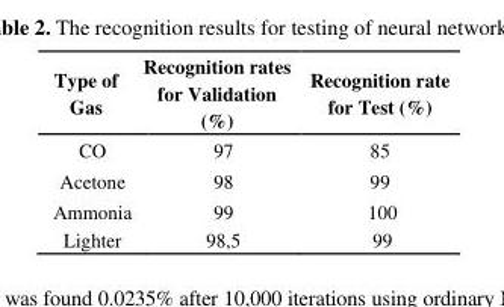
<table><thead><tr><td>Type of Gas</td><td>Recognition rates for Validation (%)</td><td>Recognition rate for Test (%)</td></tr></thead><tbody><tr><td>CO</td><td>97</td><td>85</td></tr><tr><td>Acetone</td><td>98</td><td>99</td></tr><tr><td>Ammonia</td><td>99</td><td>100</td></tr><tr><td>Lighter</td><td>98,5</td><td>99</td></tr></tbody></table>